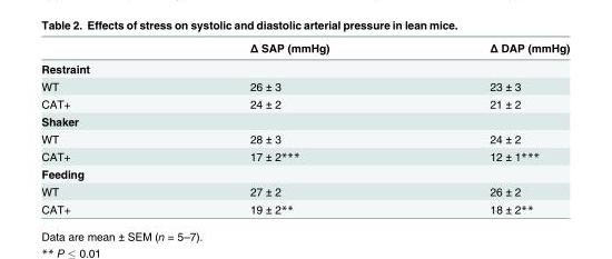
<table><thead><tr><td></td><td>Δ SAP (mmHg)</td><td>Δ DAP (mmHg)</td></tr></thead><tbody><tr><td colspan="3">Restraint</td></tr><tr><td>WT</td><td>26 ± 3</td><td>23 ± 3</td></tr><tr><td>CAT+</td><td>24 ± 2</td><td>21 ± 2</td></tr><tr><td colspan="3">Shaker</td></tr><tr><td>WT</td><td>28 ± 3</td><td>24 ± 2</td></tr><tr><td>CAT+</td><td>17 ± 2***</td><td>12 ± 1***</td></tr><tr><td colspan="3">Feeding</td></tr><tr><td>WT</td><td>27 ± 2</td><td>26 ± 2</td></tr><tr><td>CAT+</td><td>19 ± 2**</td><td>18 ± 2**</td></tr></tbody></table>